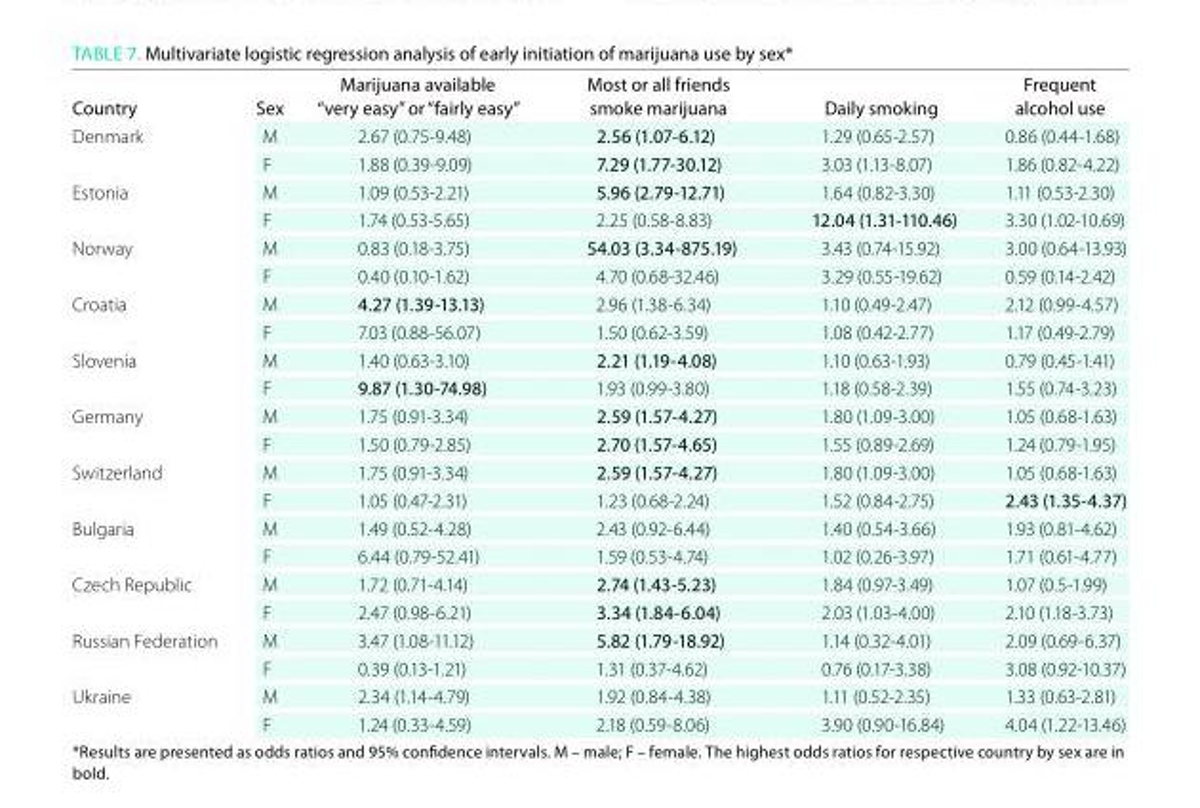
<table><thead><tr><td>Country</td><td>sex</td><td>Marijuana available “very easy” or “fairly easy”</td><td>Most or all friends smoke marijuana</td><td>daily smoking</td><td>Frequent alcohol use</td></tr></thead><tbody><tr><td rowspan="2">Denmark</td><td>M</td><td>2.67 (0.75-9.48)</td><td>2.56 (1.07-6.12)</td><td>1.29 (0.65-2.57)</td><td>0.86 (0.44-1.68)</td></tr><tr><td>F</td><td>1.88 (0.39-9.09)</td><td>7.29 (1.77-30.12)</td><td>3.03 (1.13-8.07)</td><td>1.86 (0.82-4.22)</td></tr><tr><td rowspan="2">Estonia</td><td>M</td><td>1.09 (0.53-2.21)</td><td>5.96 (2.79-12.71)</td><td>1.64 (0.82-3.30)</td><td>1.11 (0.53-2.30)</td></tr><tr><td>F</td><td>1.74 (0.53-5.65)</td><td>2.25 (0.58-8.83)</td><td>12.04 (1.31-110.46)</td><td>3.30 (1.02-10.69)</td></tr><tr><td rowspan="2">Norway</td><td>M</td><td>0.83 (0.18-3.75)</td><td>54.03 (3.34-875.19)</td><td>3.43 (0.74-15.92)</td><td>3.00 (0.64-13.93)</td></tr><tr><td>F</td><td>0.40 (0.10-1.62)</td><td>4.70 (0.68-32.46)</td><td>3.29 (0.55-19.62)</td><td>0.59 (0.14-2.42)</td></tr><tr><td rowspan="2">Croatia</td><td>M</td><td>4.27 (1.39-13.13)</td><td>2.96 (1.38-6.34)</td><td>1.10 (0.49-2.47)</td><td>2.12 (0.99-4.57)</td></tr><tr><td>F</td><td>7.03 (0.88-56.07)</td><td>1.50 (0.62-3.59)</td><td>1.08 (0.42-2.77)</td><td>1.17 (0.49-2.79)</td></tr><tr><td rowspan="2">Slovenia</td><td>M</td><td>1.40 (0.63-3.10)</td><td>2.21 (1.19-4.08)</td><td>1.10 (0.63-1.93)</td><td>0.79 (0.45-1.41)</td></tr><tr><td>F</td><td>9.87 (1.30-74.98)</td><td>1.93 (0.99-3.80)</td><td>1.18 (0.58-2.39)</td><td>1.55 (0.74-3.23)</td></tr><tr><td rowspan="2">Germany</td><td>M</td><td>1.75 (0.91-3.34)</td><td>2.59 (1.57-4.27)</td><td>1.80 (1.09-3.00)</td><td>1.05 (0.68-1.63)</td></tr><tr><td>F</td><td>1.50 (0.79-2.85)</td><td>2.70 (1.57-4.65)</td><td>1.55 (0.89-2.69)</td><td>1.24 (0.79-1.95)</td></tr><tr><td rowspan="2">Switzerland</td><td>M</td><td>1.75 (0.91-3.34)</td><td>2.59 (1.57-4.27)</td><td>1.80 (1.09-3.00)</td><td>1.05 (0.68-1.63)</td></tr><tr><td>F</td><td>1.05 (0.47-2.31)</td><td>1.23 (0.68-2.24)</td><td>1.52 (0.84-2.75)</td><td>2.43 (1.35-4.37)</td></tr><tr><td rowspan="2">Bulgaria</td><td>M</td><td>1.49 (0.52-4.28)</td><td>2.43 (0.92-6.44)</td><td>1.40 (0.54-3.66)</td><td>1.93 (0.81-4.62)</td></tr><tr><td>F</td><td>6.44 (0.79-52.41)</td><td>1.59 (0.53-4.74)</td><td>1.02 (0.26-3.97)</td><td>1.71 (0.61-4.77)</td></tr><tr><td rowspan="2">Czech Republic</td><td>M</td><td>1.72 (0.71-4.14)</td><td>2.74 (1.43-5.23)</td><td>1.84 (0.97-3.49)</td><td>1.07 (0.5-1.99)</td></tr><tr><td>F</td><td>2.47 (0.98-6.21)</td><td>3.34 (1.84-6.04)</td><td>2.03 (1.03-4.00)</td><td>2.10 (1.18-3.73)</td></tr><tr><td rowspan="2">Russian Federation</td><td>M</td><td>3.47 (1.08-11.12)</td><td>5.82 (1.79-18.92)</td><td>1.14 (0.32-4.01)</td><td>2.09 (0.69-6.37)</td></tr><tr><td>F</td><td>0.39 (0.13-1.21)</td><td>1.31 (0.37-4.62)</td><td>0.76 (0.17-3.38)</td><td>3.08 (0.92-10.37)</td></tr><tr><td rowspan="2">Ukraine</td><td>M</td><td>2.34 (1.14-4.79)</td><td>1.92 (0.84-4.38)</td><td>1.11 (0.52-2.35)</td><td>1.33 (0.63-2.81)</td></tr><tr><td>F</td><td>1.24 (0.33-4.59)</td><td>2.18 (0.59-8.06)</td><td>3.90 (0.90-16.84)</td><td>4.04 (1.22-13.46)</td></tr></tbody></table>